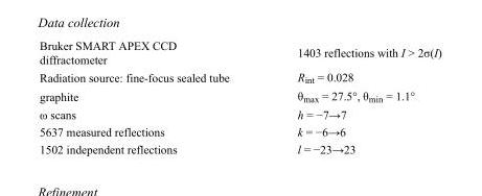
<table><tbody><tr><td>Bruker SMART APEX CCD diffractometer</td><td>1403 reflections with I &gt; 2σ(I)</td></tr><tr><td>Radiation source: fine-focus sealed tube</td><td>R<sub>int</sub> = 0.028</td></tr><tr><td>graphite</td><td>θ<sub>max</sub> = 27.5°, θ<sub>min</sub> = 1.1°</td></tr><tr><td>ω scans</td><td>h = −7→7</td></tr><tr><td>5637 measured reflections</td><td>k = −6→6</td></tr><tr><td>1502 independent reflections</td><td>l = −23→23</td></tr></tbody></table>